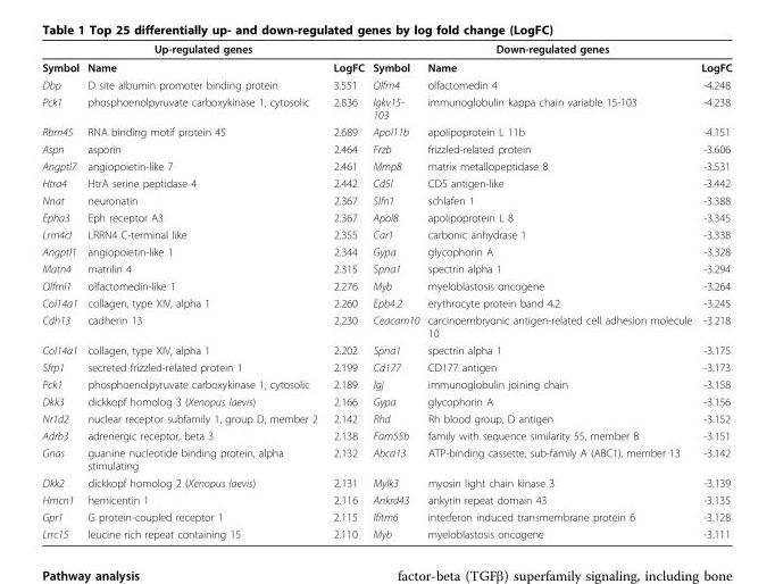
<table><thead><tr><td colspan="3">Up-regulated genes</td><td colspan="3">Down-regulated genes</td></tr><tr><td>Symbol</td><td>Name</td><td>LogFC</td><td>Symbol</td><td>Name</td><td>LogFC</td></tr></thead><tbody><tr><td>Dbp</td><td>D site albumin promoter binding protein</td><td>3.551</td><td>Olfm4</td><td>olfactomedin 4</td><td>-4.248</td></tr><tr><td>Pck1</td><td>phosphoenolpyruvate carboxykinase 1, cytosolic</td><td>2.836</td><td>Igkv15- 103</td><td>immunoglobulin kappa chain variable 15-103</td><td>-4.238</td></tr><tr><td>Rbm45</td><td>RNA binding motif protein 45</td><td>2.689</td><td>Apol11b</td><td>apolipoprotein L 11b</td><td>-4.151</td></tr><tr><td>Aspn</td><td>asporin</td><td>2.464</td><td>Frzb</td><td>frizzled-related protein</td><td>-3.606</td></tr><tr><td>Angptl7</td><td>angiopoietin-like 7</td><td>2.461</td><td>Mmp8</td><td>matrix metallopeptidase 8</td><td>-3.531</td></tr><tr><td>Htra4</td><td>HtrA serine peptidase 4</td><td>2.442</td><td>Cd5l</td><td>CD5 antigen-like</td><td>-3.442</td></tr><tr><td>Nnat</td><td>neuronatin</td><td>2.367</td><td>Slfn1</td><td>schlafen 1</td><td>-3.388</td></tr><tr><td>Epha3</td><td>Eph receptor A3</td><td>2.367</td><td>Apol8</td><td>apolipoprotein L 8</td><td>-3.345</td></tr><tr><td>Lrrn4cl</td><td>LRRN4 C-terminal like</td><td>2.355</td><td>Car1</td><td>carbonic anhydrase 1</td><td>-3.338</td></tr><tr><td>Angptl1</td><td>angiopoietin-like 1</td><td>2.344</td><td>Gypa</td><td>glycophorin A</td><td>-3.328</td></tr><tr><td>Matn4</td><td>matrilin 4</td><td>2.315</td><td>Spna1</td><td>spectrin alpha 1</td><td>-3.294</td></tr><tr><td>Olfml1</td><td>olfactomedin-like 1</td><td>2.276</td><td>Myb</td><td>myeloblastosis oncogene</td><td>-3.264</td></tr><tr><td>Col14a1</td><td>collagen, type XIV, alpha 1</td><td>2.260</td><td>Epb4.2</td><td>erythrocyte protein band 4.2</td><td>-3.245</td></tr><tr><td>Cdh13</td><td>cadherin 13</td><td>2.230</td><td>Ceacam10</td><td>carcinoembryonic antigen-related cell adhesion molecule 10</td><td>-3.218</td></tr><tr><td>Col14a1</td><td>collagen, type XIV, alpha 1</td><td>2.202</td><td>Spna1</td><td>spectrin alpha 1</td><td>-3.175</td></tr><tr><td>Sfrp1</td><td>secreted frizzled-related protein 1</td><td>2.199</td><td>Cd177</td><td>CD177 antigen</td><td>-3.173</td></tr><tr><td>Pck1</td><td>phosphoenolpyruvate carboxykinase 1, cytosolic</td><td>2.189</td><td>Igj</td><td>immunoglobulin joining chain</td><td>-3.158</td></tr><tr><td>Dkk3</td><td>dickkopf homolog 3 (Xenopus laevis)</td><td>2.166</td><td>Gypa</td><td>glycophorin A</td><td>-3.156</td></tr><tr><td>Nr1d2</td><td>nuclear receptor subfamily 1, group D, member 2</td><td>2.142</td><td>Rhd</td><td>Rh blood group, D antigen</td><td>-3.152</td></tr><tr><td>Adrb3</td><td>adrenergic receptor, beta 3</td><td>2.138</td><td>Fam55b</td><td>family with sequence similarity 55, member B</td><td>-3.151</td></tr><tr><td>Gnas</td><td>guanine nucleotide binding protein, alpha stimulating</td><td>2.132</td><td>Abca13</td><td>ATP-binding cassette, sub-family A (ABC1), member 13</td><td>-3.142</td></tr><tr><td>Dkk2</td><td>dickkopf homolog 2 (Xenopus laevis)</td><td>2.131</td><td>Mylk3</td><td>myosin light chain kinase 3</td><td>-3.139</td></tr><tr><td>Hmcn1</td><td>hemicentin 1</td><td>2.116</td><td>Ankrd43</td><td>ankyrin repeat domain 43</td><td>-3.135</td></tr><tr><td>Gpr1</td><td>G protein-coupled receptor 1</td><td>2.115</td><td>Ifitm6</td><td>interferon induced transmembrane protein 6</td><td>-3.128</td></tr><tr><td>Lrrc15</td><td>leucine rich repeat containing 15</td><td>2.110</td><td>Myb</td><td>myeloblastosis oncogene</td><td>-3.111</td></tr></tbody></table>